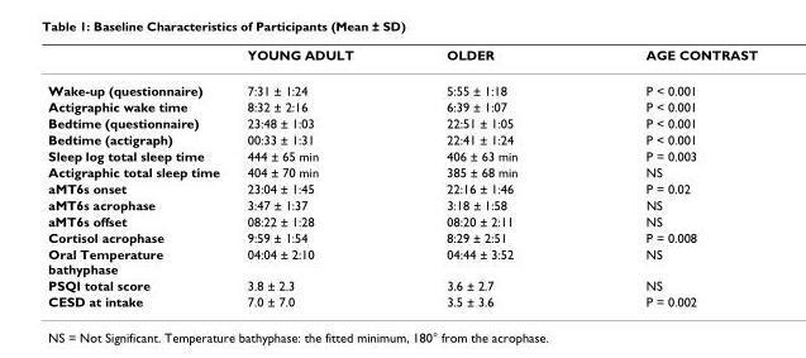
<table><thead><tr><td></td><td>YOUNG ADULT</td><td>OLDER</td><td>AGE CONTRAST</td></tr></thead><tbody><tr><td>Wake-up (questionnaire)</td><td>7:31 ± 1:24</td><td>5:55 ± 1:18</td><td>P &lt; 0.001</td></tr><tr><td>Actigraphic wake time</td><td>8:32 ± 2:16</td><td>6:39 ± 1:07</td><td>P &lt; 0.001</td></tr><tr><td>Bedtime (questionnaire)</td><td>23:48 ± 1:03</td><td>22:51 ± 1:05</td><td>P &lt; 0.001</td></tr><tr><td>Bedtime (actigraph)</td><td>00:33 ± 1:31</td><td>22:41 ± 1:24</td><td>P &lt; 0.001</td></tr><tr><td>Sleep log total sleep time</td><td>444 ± 65 min</td><td>406 ± 63 min</td><td>P = 0.003</td></tr><tr><td>Actigraphic total sleep time</td><td>404 ± 70 min</td><td>385 ± 68 min</td><td>NS</td></tr><tr><td>aMT6s onset</td><td>23:04 ± 1:45</td><td>22:16 ± 1:46</td><td>P = 0.02</td></tr><tr><td>aMT6s acrophase</td><td>3:47 ± 1:37</td><td>3:18 ± 1:58</td><td>NS</td></tr><tr><td>aMT6s offset</td><td>08:22 ± 1:28</td><td>08:20 ± 2:11</td><td>NS</td></tr><tr><td>Cortisol acrophase</td><td>9:59 ± 1:54</td><td>8:29 ± 2:51</td><td>P = 0.008</td></tr><tr><td>Oral Temperature bathyphase</td><td>04:04 ± 2:10</td><td>04:44 ± 3:52</td><td>NS</td></tr><tr><td>PSQI total score</td><td>3.8 ± 2.3</td><td>3.6 ± 2.7</td><td>NS</td></tr><tr><td>CESD at intake</td><td>7.0 ± 7.0</td><td>3.5 ± 3.6</td><td>P = 0.002</td></tr></tbody></table>